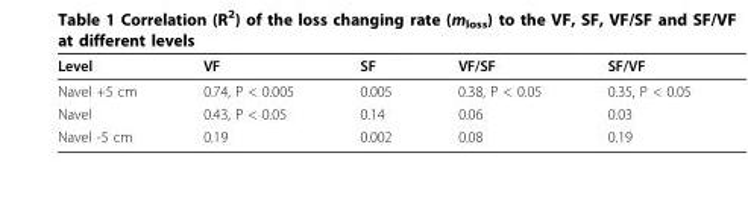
<table><thead><tr><td>Level</td><td>VF</td><td>SF</td><td>VF/SF</td><td>SF/VF</td></tr></thead><tbody><tr><td>Navel +5 cm</td><td>0.74, P &lt; 0.005</td><td>0.005</td><td>0.38, P &lt; 0.05</td><td>0.35, P &lt; 0.05</td></tr><tr><td>Navel</td><td>0.43, P &lt; 0.05</td><td>0.14</td><td>0.06</td><td>0.03</td></tr><tr><td>Navel -5 cm</td><td>0.19</td><td>0.002</td><td>0.08</td><td>0.19</td></tr></tbody></table>